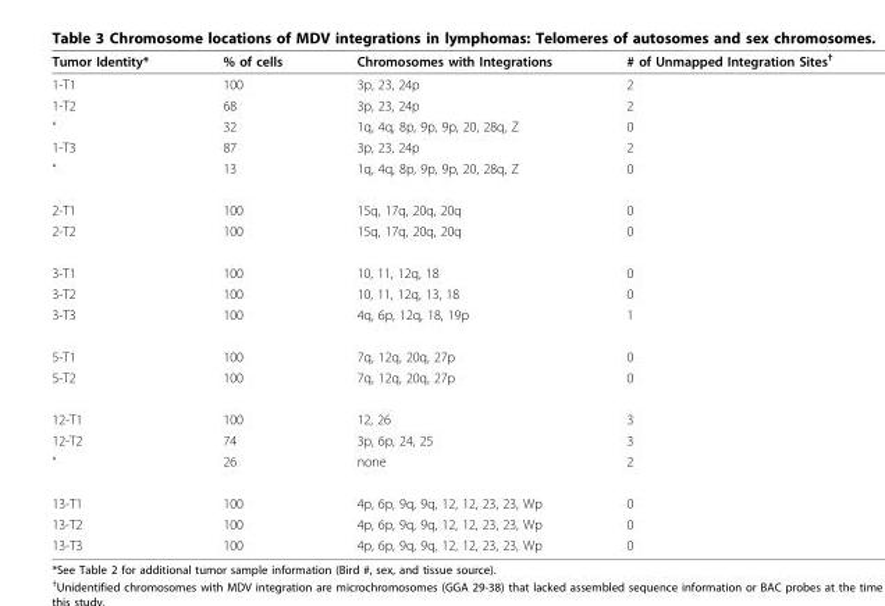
<table><thead><tr><td>Tumor Identity*</td><td>% of cells</td><td>Chromosomes with Integrations</td><td># of Unmapped Integration Sites<sup>†</sup></td></tr></thead><tbody><tr><td>1-T1</td><td>100</td><td>3p, 23, 24p</td><td>2</td></tr><tr><td>1-T2</td><td>68</td><td>3p, 23, 24p</td><td>2</td></tr><tr><td>“</td><td>32</td><td>1q, 4q, 8p, 9p, 9p, 20, 28q, Z</td><td>0</td></tr><tr><td>1-T3</td><td>87</td><td>3p, 23, 24p</td><td>2</td></tr><tr><td>“</td><td>13</td><td>1q, 4q, 8p, 9p, 9p, 20, 28q, Z</td><td>0</td></tr><tr><td>2-T1</td><td>100</td><td>15q, 17q, 20q, 20q</td><td>0</td></tr><tr><td>2-T2</td><td>100</td><td>15q, 17q, 20q, 20q</td><td>0</td></tr><tr><td>3-T1</td><td>100</td><td>10, 11, 12q, 18</td><td>0</td></tr><tr><td>3-T2</td><td>100</td><td>10, 11, 12q, 13, 18</td><td>0</td></tr><tr><td>3-T3</td><td>100</td><td>4q, 6p, 12q, 18, 19p</td><td>1</td></tr><tr><td>5-T1</td><td>100</td><td>7q, 12q, 20q, 27p</td><td>0</td></tr><tr><td>5-T2</td><td>100</td><td>7q, 12q, 20q, 27p</td><td>0</td></tr><tr><td>12-T1</td><td>100</td><td>12, 26</td><td>3</td></tr><tr><td>12-T2</td><td>74</td><td>3p, 6p, 24, 25</td><td>3</td></tr><tr><td>“</td><td>26</td><td>none</td><td>2</td></tr><tr><td>13-T1</td><td>100</td><td>4p, 6p, 9q, 9q, 12, 12, 23, 23, Wp</td><td>0</td></tr><tr><td>13-T2</td><td>100</td><td>4p, 6p, 9q, 9q, 12, 12, 23, 23, Wp</td><td>0</td></tr><tr><td>13-T3</td><td>100</td><td>4p, 6p, 9q, 9q, 12, 12, 23, 23, Wp</td><td>0</td></tr></tbody></table>